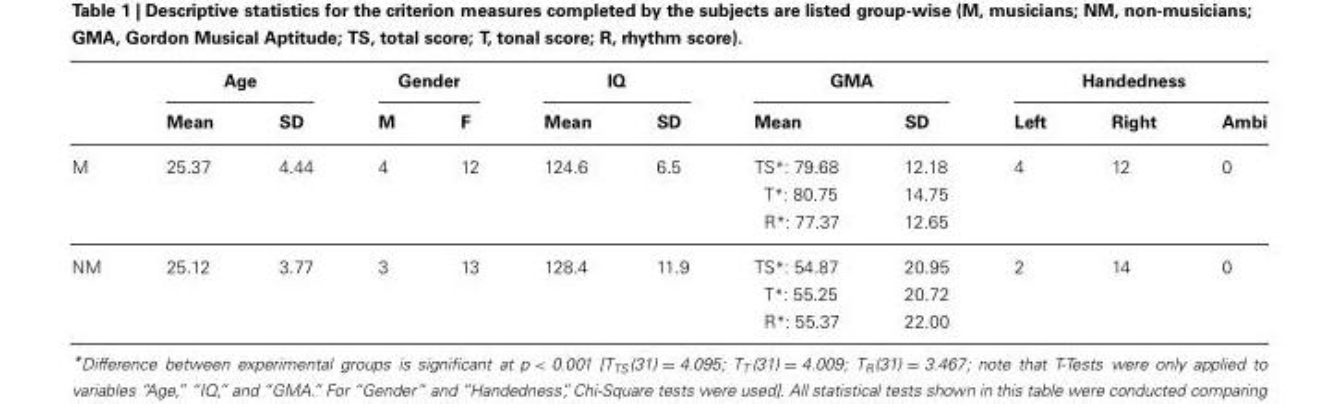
<table><thead><tr><td rowspan="2"></td><td colspan="2">Age</td><td colspan="2">Gender</td><td colspan="2">IQ</td><td colspan="2">GMA</td><td colspan="3">Handedness</td></tr><tr><td>Mean</td><td>SD</td><td>M</td><td>F</td><td>Mean</td><td>SD</td><td>Mean</td><td>SD</td><td>Left</td><td>Right</td><td>Ambi</td></tr></thead><tbody><tr><td rowspan="3">M</td><td>25.37</td><td>4.44</td><td>4</td><td>12</td><td>124.6</td><td>6.5</td><td>TS*: 79.68</td><td>12.18</td><td>4</td><td>12</td><td>0</td></tr><tr><td></td><td></td><td></td><td></td><td></td><td></td><td>T*: 80.75</td><td>14.75</td><td></td><td></td><td></td></tr><tr><td></td><td></td><td></td><td></td><td></td><td></td><td>R*: 77.37</td><td>12.65</td><td></td><td></td><td></td></tr><tr><td rowspan="3">NM</td><td>25.12</td><td>3.77</td><td>3</td><td>13</td><td>128.4</td><td>11.9</td><td>TS*: 54.87</td><td>20.95</td><td>2</td><td>14</td><td>0</td></tr><tr><td></td><td></td><td></td><td></td><td></td><td></td><td>T*: 55.25</td><td>20.72</td><td></td><td></td><td></td></tr><tr><td></td><td></td><td></td><td></td><td></td><td></td><td>R*: 55.37</td><td>22.00</td><td></td><td></td><td></td></tr></tbody></table>